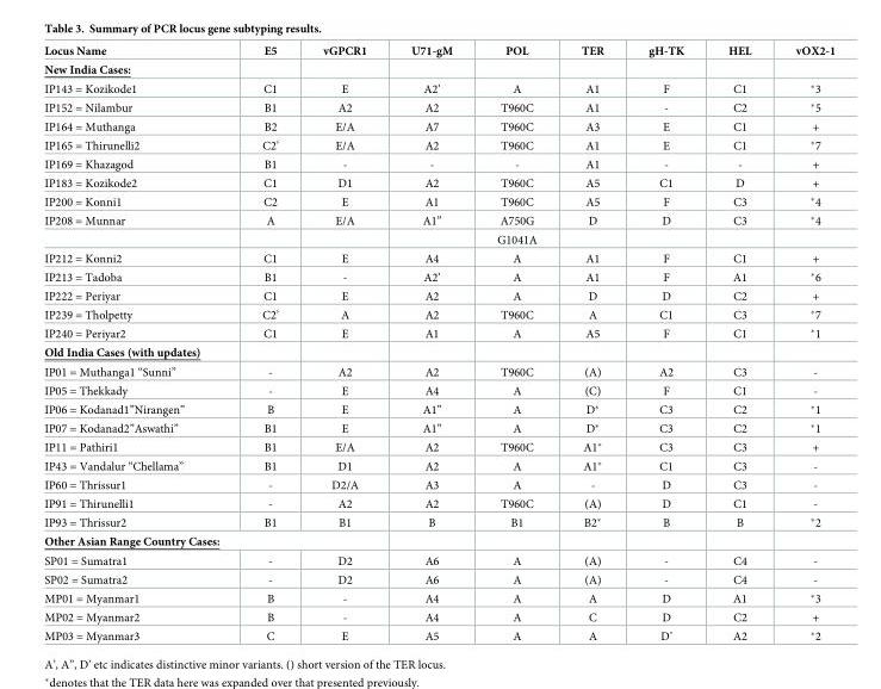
<table><thead><tr><td>Locus Name</td><td>E5</td><td>vGPCR1</td><td>U71-gM</td><td>POL</td><td>TER</td><td>gH-TK</td><td>HEL</td><td>vOX2-1</td></tr></thead><tbody><tr><td colspan="9">New India Cases:</td></tr><tr><td>IP143 = Kozikode1</td><td>C1</td><td>E</td><td>A2’</td><td>A</td><td>A1</td><td>F</td><td>C1</td><td>*3</td></tr><tr><td>IP152 = Nilambur</td><td>B1</td><td>A2</td><td>A2</td><td>T960C</td><td>A1</td><td>-</td><td>C2</td><td>*5</td></tr><tr><td>IP164 = Muthanga</td><td>B2</td><td>E/A</td><td>A7</td><td>T960C</td><td>A3</td><td>E</td><td>C1</td><td>+</td></tr><tr><td>IP165 = Thirunelli2</td><td>C2’</td><td>E/A</td><td>A2</td><td>T960C</td><td>A1</td><td>E</td><td>C1</td><td>*7</td></tr><tr><td>IP169 = Khazagod</td><td>B1</td><td>-</td><td>-</td><td>-</td><td>A1</td><td>-</td><td>-</td><td>+</td></tr><tr><td>IP183 = Kozikode2</td><td>C1</td><td>D1</td><td>A2</td><td>T960C</td><td>A5</td><td>C1</td><td>D</td><td>+</td></tr><tr><td>IP200 = Konni1</td><td>C2</td><td>E</td><td>A1</td><td>T960C</td><td>A5</td><td>F</td><td>C3</td><td>*4</td></tr><tr><td rowspan="2">IP208 = Munnar</td><td>A</td><td>E/A</td><td>A1”</td><td>A750G</td><td>D</td><td>D</td><td>C3</td><td>*4</td></tr><tr><td></td><td></td><td></td><td>G1041A</td><td></td><td></td><td></td><td></td></tr><tr><td>IP212 = Konni2</td><td>C1</td><td>E</td><td>A4</td><td>A</td><td>A1</td><td>F</td><td>C1</td><td>+</td></tr><tr><td>IP213 = Tadoba</td><td>B1</td><td>-</td><td>A2’</td><td>A</td><td>A1</td><td>F</td><td>A1</td><td>*6</td></tr><tr><td>IP222 = Periyar</td><td>C1</td><td>E</td><td>A2</td><td>A</td><td>D</td><td>D</td><td>C2</td><td>+</td></tr><tr><td>IP239 = Tholpetty</td><td>C2’</td><td>A</td><td>A2</td><td>T960C</td><td>A</td><td>C1</td><td>C3</td><td>*7</td></tr><tr><td>IP240 = Periyar2</td><td>C1</td><td>E</td><td>A1</td><td>A</td><td>A5</td><td>F</td><td>C1</td><td>*1</td></tr><tr><td colspan="9">Old India Cases (with updates)</td></tr><tr><td>IP01 = Muthanga1 “Sunni”</td><td>-</td><td>A2</td><td>A2</td><td>T960C</td><td>(A)</td><td>A2</td><td>C3</td><td>-</td></tr><tr><td>IP05 = Thekkady</td><td>-</td><td>E</td><td>A4</td><td>A</td><td>(C)</td><td>F</td><td>C1</td><td>-</td></tr><tr><td>IP06 = Kodanad1”Nirangen”</td><td>B</td><td>E</td><td>A1”</td><td>A</td><td>D*</td><td>C3</td><td>C2</td><td>*1</td></tr><tr><td>IP07 = Kodanad2”Aswathi”</td><td>B1</td><td>E</td><td>A1”</td><td>A</td><td>D*</td><td>C3</td><td>C2</td><td>*1</td></tr><tr><td>IP11 = Pathiri1</td><td>B1</td><td>E/A</td><td>A2</td><td>T960C</td><td>A1*</td><td>C3</td><td>C3</td><td>+</td></tr><tr><td>IP43 = Vandalur “Chellama”</td><td>B1</td><td>D1</td><td>A2</td><td>A</td><td>A1*</td><td>C1</td><td>C3</td><td>-</td></tr><tr><td>IP60 = Thrissur1</td><td>-</td><td>D2/A</td><td>A3</td><td>A</td><td>-</td><td>D</td><td>C3</td><td>-</td></tr><tr><td>IP91 = Thirunelli1</td><td>-</td><td>A2</td><td>A2</td><td>T960C</td><td>(A)</td><td>D</td><td>C1</td><td>-</td></tr><tr><td>IP93 = Thrissur2</td><td>B1</td><td>B1</td><td>B</td><td>B1</td><td>B2*</td><td>B</td><td>B</td><td>*2</td></tr><tr><td colspan="9">Other Asian Range Country Cases:</td></tr><tr><td>SP01 = Sumatra1</td><td>-</td><td>D2</td><td>A6</td><td>A</td><td>(A)</td><td>-</td><td>C4</td><td>-</td></tr><tr><td>SP02 = Sumatra2</td><td>-</td><td>D2</td><td>A6</td><td>A</td><td>(A)</td><td>-</td><td>C4</td><td>-</td></tr><tr><td>MP01 = Myanmar1</td><td>B</td><td>-</td><td>A4</td><td>A</td><td>A</td><td>D</td><td>A1</td><td>*3</td></tr><tr><td>MP02 = Myanmar2</td><td>B</td><td>-</td><td>A4</td><td>A</td><td>C</td><td>D</td><td>C2</td><td>+</td></tr><tr><td>MP03 = Myanmar3</td><td>C</td><td>E</td><td>A5</td><td>A</td><td>A</td><td>D’</td><td>A2</td><td>*2</td></tr></tbody></table>